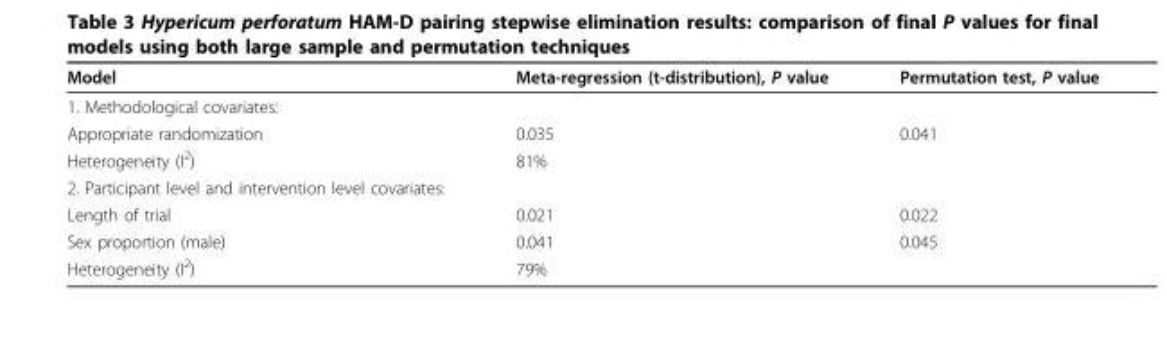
<table><thead><tr><td>Model</td><td>Meta-regression (t-distribution), P value</td><td>Permutation test, P value</td></tr></thead><tbody><tr><td colspan="3">1. Methodological covariates:</td></tr><tr><td>Appropriate randomization</td><td>0.035</td><td>0.041</td></tr><tr><td>Heterogeneity (I<sup>2</sup>)</td><td>81%</td><td></td></tr><tr><td colspan="3">2. Participant level and intervention level covariates:</td></tr><tr><td>Length of trial</td><td>0.021</td><td>0.022</td></tr><tr><td>Sex proportion (male)</td><td>0.041</td><td>0.045</td></tr><tr><td>Heterogeneity (I<sup>2</sup>)</td><td>79%</td><td></td></tr></tbody></table>